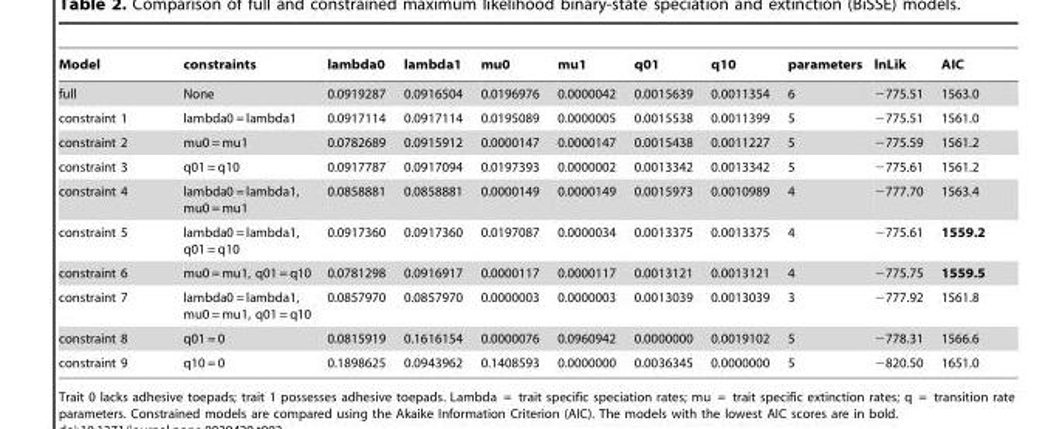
<table><thead><tr><td>Model</td><td>constraints</td><td>lambda0</td><td>lambda1</td><td>mu0</td><td>mu1</td><td>q01</td><td>q10</td><td>parameters</td><td>lnLik</td><td>AIC</td></tr></thead><tbody><tr><td>full</td><td>None</td><td>0.0919287</td><td>0.0916504</td><td>0.0196976</td><td>0.0000042</td><td>0.0015639</td><td>0.0011354</td><td>6</td><td>−775.51</td><td>1563.0</td></tr><tr><td>constraint 1</td><td>lambda0 = lambda1</td><td>0.0917114</td><td>0.0917114</td><td>0.0195089</td><td>0.0000005</td><td>0.0015538</td><td>0.0011399</td><td>5</td><td>−775.51</td><td>1561.0</td></tr><tr><td>constraint 2</td><td>mu0 = mu1</td><td>0.0782689</td><td>0.0915912</td><td>0.0000147</td><td>0.0000147</td><td>0.0015438</td><td>0.0011227</td><td>5</td><td>−775.59</td><td>1561.2</td></tr><tr><td>constraint 3</td><td>q01 = q10</td><td>0.0917787</td><td>0.0917094</td><td>0.0197393</td><td>0.0000002</td><td>0.0013342</td><td>0.0013342</td><td>5</td><td>−775.61</td><td>1561.2</td></tr><tr><td>constraint 4</td><td>lambda0 = lambda1, mu0 = mu1</td><td>0.0858881</td><td>0.0858881</td><td>0.0000149</td><td>0.0000149</td><td>0.0015973</td><td>0.0010989</td><td>4</td><td>−777.70</td><td>1563.4</td></tr><tr><td>constraint 5</td><td>lambda0 = lambda1, q01 = q10</td><td>0.0917360</td><td>0.0917360</td><td>0.0197087</td><td>0.0000034</td><td>0.0013375</td><td>0.0013375</td><td>4</td><td>−775.61</td><td>1559.2</td></tr><tr><td>constraint 6</td><td>mu0 = mu1, q01 = q10</td><td>0.0781298</td><td>0.0916917</td><td>0.0000117</td><td>0.0000117</td><td>0.0013121</td><td>0.0013121</td><td>4</td><td>−775.75</td><td>1559.5</td></tr><tr><td>constraint 7</td><td>lambda0 = lambda1, mu0 = mu1, q01 = q10</td><td>0.0857970</td><td>0.0857970</td><td>0.0000003</td><td>0.0000003</td><td>0.0013039</td><td>0.0013039</td><td>3</td><td>−777.92</td><td>1561.8</td></tr><tr><td>constraint 8</td><td>q01 = 0</td><td>0.0815919</td><td>0.1616154</td><td>0.0000076</td><td>0.0960942</td><td>0.0000000</td><td>0.0019102</td><td>5</td><td>−778.31</td><td>1566.6</td></tr><tr><td>constraint 9</td><td>q10 = 0</td><td>0.1898625</td><td>0.0943962</td><td>0.1408593</td><td>0.0000000</td><td>0.0036345</td><td>0.0000000</td><td>5</td><td>−820.50</td><td>1651.0</td></tr></tbody></table>